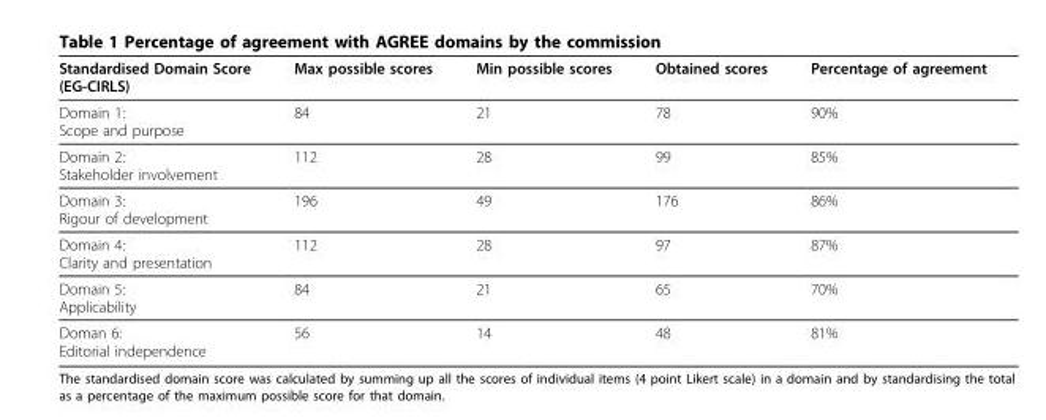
<table><thead><tr><td>Standardised Domain Score (EG-CIRLS)</td><td>Max possible scores</td><td>Min possible scores</td><td>Obtained scores</td><td>Percentage of agreement</td></tr></thead><tbody><tr><td>Domain 1: Scope and purpose</td><td>84</td><td>21</td><td>78</td><td>90%</td></tr><tr><td>Domain 2: Stakeholder involvement</td><td>112</td><td>28</td><td>99</td><td>85%</td></tr><tr><td>Domain 3: Rigour of development</td><td>196</td><td>49</td><td>176</td><td>86%</td></tr><tr><td>Domain 4: Clarity and presentation</td><td>112</td><td>28</td><td>97</td><td>87%</td></tr><tr><td>Domain 5: Applicability</td><td>84</td><td>21</td><td>65</td><td>70%</td></tr><tr><td>Doman 6: Editorial independence</td><td>56</td><td>14</td><td>48</td><td>81%</td></tr></tbody></table>